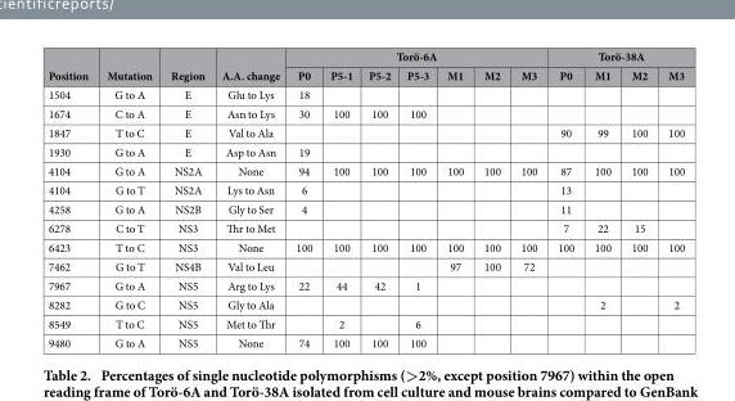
<table><thead><tr><td rowspan="2">Position</td><td rowspan="2">Mutation</td><td rowspan="2">Region</td><td rowspan="2">A.A. change</td><td colspan="7">Torö-6A</td><td colspan="4">Torö-38A</td></tr><tr><td>P0</td><td>P5-1</td><td>P5-2</td><td>P5-3</td><td>M1</td><td>M2</td><td>M3</td><td>P0</td><td>M1</td><td>M2</td><td>M3</td></tr></thead><tbody><tr><td>1504</td><td>G to A</td><td>E</td><td>Glu to Lys</td><td>18</td><td></td><td></td><td></td><td></td><td></td><td></td><td></td><td></td><td></td><td></td></tr><tr><td>1674</td><td>C to A</td><td>E</td><td>Asn to Lys</td><td>30</td><td>100</td><td>100</td><td>100</td><td></td><td></td><td></td><td></td><td></td><td></td><td></td></tr><tr><td>1847</td><td>T to C</td><td>E</td><td>Val to Ala</td><td></td><td></td><td></td><td></td><td></td><td></td><td></td><td>90</td><td>99</td><td>100</td><td>100</td></tr><tr><td>1930</td><td>G to A</td><td>E</td><td>Asp to Asn</td><td>19</td><td></td><td></td><td></td><td></td><td></td><td></td><td></td><td></td><td></td><td></td></tr><tr><td>4104</td><td>G to A</td><td>NS2A</td><td>None</td><td>94</td><td>100</td><td>100</td><td>100</td><td>100</td><td>100</td><td>100</td><td>87</td><td>100</td><td>100</td><td>100</td></tr><tr><td>4104</td><td>G to T</td><td>NS2A</td><td>Lys to Asn</td><td>6</td><td></td><td></td><td></td><td></td><td></td><td></td><td>13</td><td></td><td></td><td></td></tr><tr><td>4258</td><td>G to A</td><td>NS2B</td><td>Gly to Ser</td><td>4</td><td></td><td></td><td></td><td></td><td></td><td></td><td>11</td><td></td><td></td><td></td></tr><tr><td>6278</td><td>C to T</td><td>NS3</td><td>Thr to Met</td><td></td><td></td><td></td><td></td><td></td><td></td><td></td><td>7</td><td>22</td><td>15</td><td></td></tr><tr><td>6423</td><td>T to C</td><td>NS3</td><td>None</td><td>100</td><td>100</td><td>100</td><td>100</td><td>100</td><td>100</td><td>100</td><td>100</td><td>100</td><td>100</td><td>100</td></tr><tr><td>7462</td><td>G to T</td><td>NS4B</td><td>Val to Leu</td><td></td><td></td><td></td><td></td><td>97</td><td>100</td><td>72</td><td></td><td></td><td></td><td></td></tr><tr><td>7967</td><td>G to A</td><td>NS5</td><td>Arg to Lys</td><td>22</td><td>44</td><td>42</td><td>1</td><td></td><td></td><td></td><td></td><td></td><td></td><td></td></tr><tr><td>8282</td><td>G to C</td><td>NS5</td><td>Gly to Ala</td><td></td><td></td><td></td><td></td><td></td><td></td><td></td><td></td><td>2</td><td></td><td>2</td></tr><tr><td>8549</td><td>T to C</td><td>NS5</td><td>Met to Thr</td><td></td><td>2</td><td></td><td>6</td><td></td><td></td><td></td><td></td><td></td><td></td><td></td></tr><tr><td>9480</td><td>G to A</td><td>NS5</td><td>None</td><td>74</td><td>100</td><td>100</td><td>100</td><td></td><td></td><td></td><td></td><td></td><td></td><td></td></tr></tbody></table>